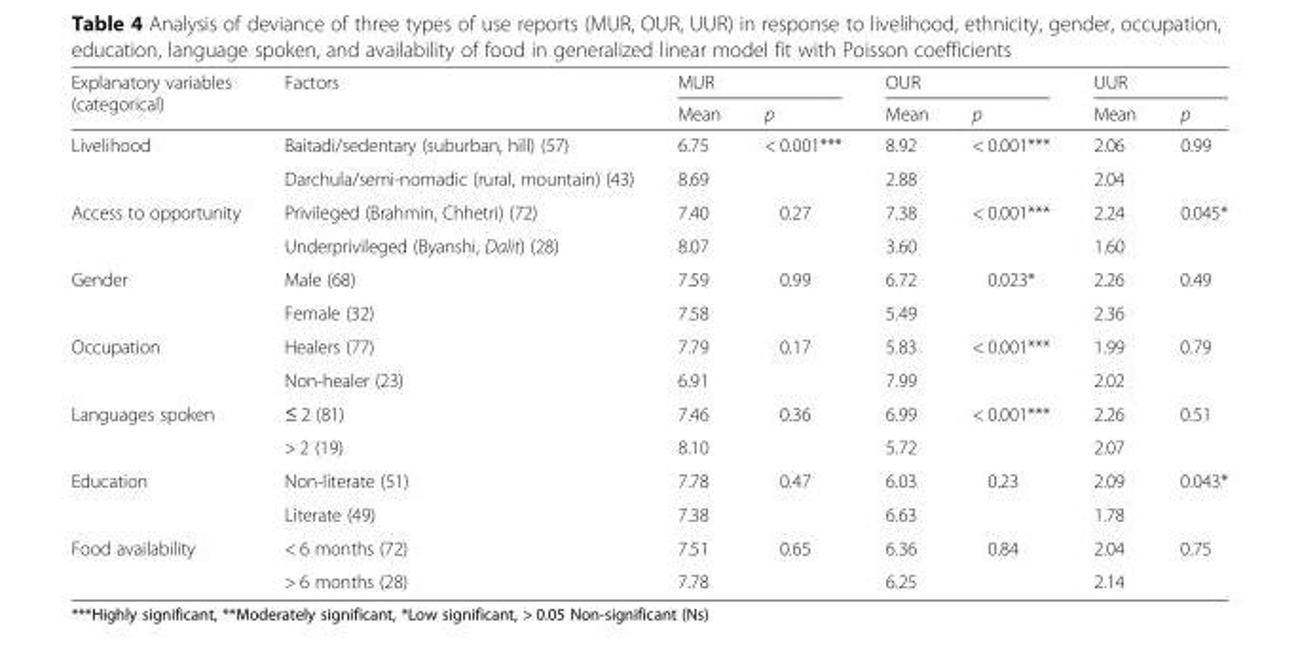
<table><thead><tr><td rowspan="2">Explanatory variables (categorical)</td><td rowspan="2">Factors</td><td colspan="2">MUR</td><td colspan="2">OUR</td><td colspan="2">UUR</td></tr><tr><td>Mean</td><td>p</td><td>Mean</td><td>p</td><td>Mean</td><td>p</td></tr></thead><tbody><tr><td rowspan="2">Livelihood</td><td>Baitadi/sedentary (suburban, hill) (57)</td><td>6.75</td><td rowspan="2">&lt; 0.001***</td><td>8.92</td><td rowspan="2">&lt; 0.001***</td><td>2.06</td><td rowspan="2">0.99</td></tr><tr><td>Darchula/semi-nomadic (rural, mountain) (43)</td><td>8.69</td><td>2.88</td><td>2.04</td></tr><tr><td rowspan="2">Access to opportunity</td><td>Privileged (Brahmin, Chhetri) (72)</td><td>7.40</td><td rowspan="2">0.27</td><td>7.38</td><td rowspan="2">&lt; 0.001***</td><td>2.24</td><td rowspan="2">0.045*</td></tr><tr><td>Underprivileged (Byanshi, Dalit) (28)</td><td>8.07</td><td>3.60</td><td>1.60</td></tr><tr><td rowspan="2">Gender</td><td>Male (68)</td><td>7.59</td><td rowspan="2">0.99</td><td>6.72</td><td rowspan="2">0.023*</td><td>2.26</td><td rowspan="2">0.49</td></tr><tr><td>Female (32)</td><td>7.58</td><td>5.49</td><td>2.36</td></tr><tr><td rowspan="2">Occupation</td><td>Healers (77)</td><td>7.79</td><td rowspan="2">0.17</td><td>5.83</td><td rowspan="2">&lt; 0.001***</td><td>1.99</td><td rowspan="2">0.79</td></tr><tr><td>Non-healer (23)</td><td>6.91</td><td>7.99</td><td>2.02</td></tr><tr><td rowspan="2">Languages spoken</td><td>≤ 2 (81)</td><td>7.46</td><td rowspan="2">0.36</td><td>6.99</td><td rowspan="2">&lt; 0.001***</td><td>2.26</td><td rowspan="2">0.51</td></tr><tr><td>&gt; 2 (19)</td><td>8.10</td><td>5.72</td><td>2.07</td></tr><tr><td rowspan="2">Education</td><td>Non-literate (51)</td><td>7.78</td><td rowspan="2">0.47</td><td>6.03</td><td rowspan="2">0.23</td><td>2.09</td><td rowspan="2">0.043*</td></tr><tr><td>Literate (49)</td><td>7.38</td><td>6.63</td><td>1.78</td></tr><tr><td rowspan="2">Food availability</td><td>&lt; 6 months (72)</td><td>7.51</td><td rowspan="2">0.65</td><td>6.36</td><td rowspan="2">0.84</td><td>2.04</td><td rowspan="2">0.75</td></tr><tr><td>&gt; 6 months (28)</td><td>7.78</td><td>6.25</td><td>2.14</td></tr></tbody></table>